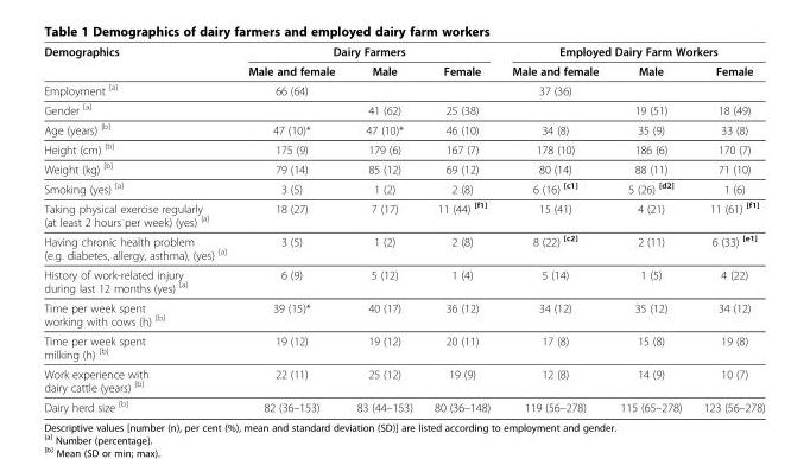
<table><thead><tr><td rowspan="2">Demographics</td><td colspan="3">Dairy Farmers</td><td colspan="3">Employed Dairy Farm Workers</td></tr><tr><td>Male and female</td><td>Male</td><td>Female</td><td>Male and female</td><td>Male</td><td>Female</td></tr></thead><tbody><tr><td>Employment <sup>[a]</sup></td><td>66 (64)</td><td></td><td></td><td>37 (36)</td><td></td><td></td></tr><tr><td>Gender <sup>[a]</sup></td><td></td><td>41 (62)</td><td>25 (38)</td><td></td><td>19 (51)</td><td>18 (49)</td></tr><tr><td>Age (years) <sup>[b]</sup></td><td>47 (10)*</td><td>47 (10)*</td><td>46 (10)</td><td>34 (8)</td><td>35 (9)</td><td>33 (8)</td></tr><tr><td>Height (cm) <sup>[b]</sup></td><td>175 (9)</td><td>179 (6)</td><td>167 (7)</td><td>178 (10)</td><td>186 (6)</td><td>170 (7)</td></tr><tr><td>Weight (kg) <sup>[b]</sup></td><td>79 (14)</td><td>85 (12)</td><td>69 (12)</td><td>80 (14)</td><td>88 (11)</td><td>71 (10)</td></tr><tr><td>Smoking (yes) <sup>[a]</sup></td><td>3 (5)</td><td>1 (2)</td><td>2 (8)</td><td>6 (16) <sup>[c1]</sup></td><td>5 (26) <sup>[d2]</sup></td><td>1 (6)</td></tr><tr><td>Taking physical exercise regularly (at least 2 hours per week) (yes) <sup>[a]</sup></td><td>18 (27)</td><td>7 (17)</td><td>11 (44) <sup>[f1]</sup></td><td>15 (41)</td><td>4 (21)</td><td>11 (61) <sup>[f1]</sup></td></tr><tr><td>Having chronic health problem (e.g. diabetes, allergy, asthma), (yes) <sup>[a]</sup></td><td>3 (5)</td><td>1 (2)</td><td>2 (8)</td><td>8 (22) <sup>[c2]</sup></td><td>2 (11)</td><td>6 (33) <sup>[e1]</sup></td></tr><tr><td>History of work-related injury during last 12 months (yes) <sup>[a]</sup></td><td>6 (9)</td><td>5 (12)</td><td>1 (4)</td><td>5 (14)</td><td>1 (5)</td><td>4 (22)</td></tr><tr><td>Time per week spent working with cows (h) <sup>[b]</sup></td><td>39 (15)*</td><td>40 (17)</td><td>36 (12)</td><td>34 (12)</td><td>35 (12)</td><td>34 (12)</td></tr><tr><td>Time per week spent milking (h) <sup>[b]</sup></td><td>19 (12)</td><td>19 (12)</td><td>20 (11)</td><td>17 (8)</td><td>15 (8)</td><td>19 (8)</td></tr><tr><td>Work experience with dairy cattle (years) <sup>[b]</sup></td><td>22 (11)</td><td>25 (12)</td><td>19 (9)</td><td>12 (8)</td><td>14 (9)</td><td>10 (7)</td></tr><tr><td>Dairy herd size <sup>[b]</sup></td><td>82 (36–153)</td><td>83 (44–153)</td><td>80 (36–148)</td><td>119 (56–278)</td><td>115 (65–278)</td><td>123 (56–278)</td></tr></tbody></table>